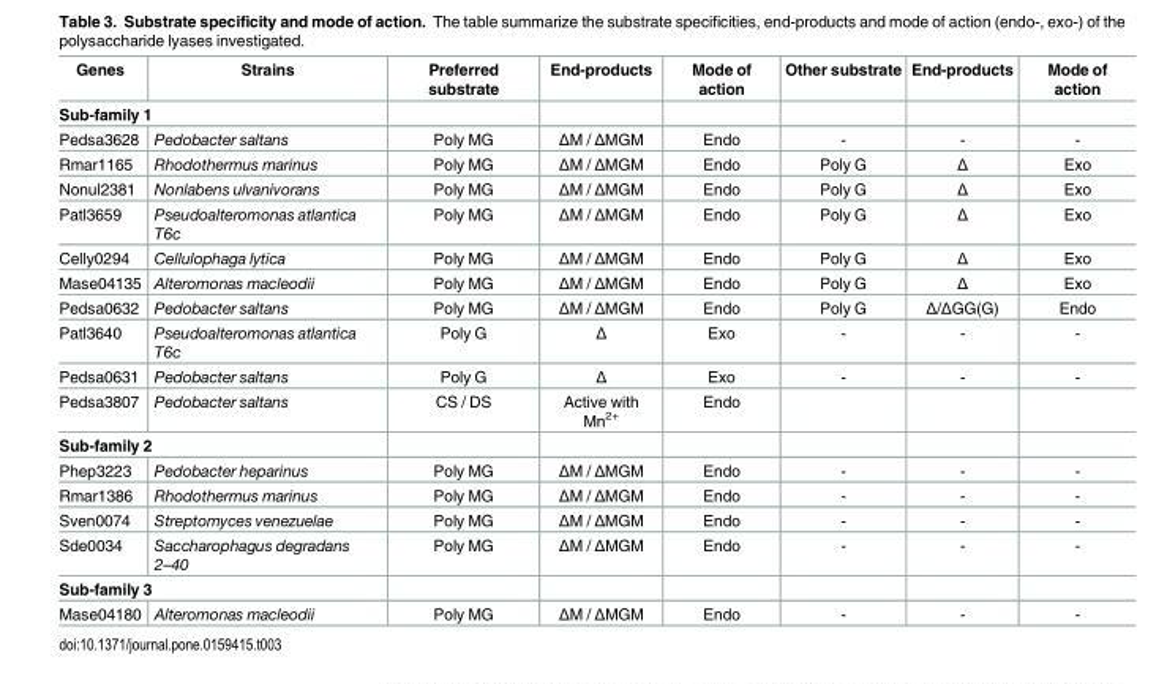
<table><thead><tr><td>Genes</td><td>Strains</td><td>Preferred substrate</td><td>End-products</td><td>Mode of action</td><td>Other substrate</td><td>End-products</td><td>Mode of action</td></tr></thead><tbody><tr><td colspan="8">Sub-family 1</td></tr><tr><td>Pedsa3628</td><td>Pedobacter saltans</td><td>Poly MG</td><td>ΔM / ΔMGM</td><td>Endo</td><td>-</td><td>-</td><td>-</td></tr><tr><td>Rmar1165</td><td>Rhodothermus marinus</td><td>Poly MG</td><td>ΔM / ΔMGM</td><td>Endo</td><td>Poly G</td><td>Δ</td><td>Exo</td></tr><tr><td>Nonul2381</td><td>Nonlabens ulvanivorans</td><td>Poly MG</td><td>ΔM / ΔMGM</td><td>Endo</td><td>Poly G</td><td>Δ</td><td>Exo</td></tr><tr><td>Patl3659</td><td>Pseudoalteromonas atlantica T6c</td><td>Poly MG</td><td>ΔM / ΔMGM</td><td>Endo</td><td>Poly G</td><td>Δ</td><td>Exo</td></tr><tr><td>Celly0294</td><td>Cellulophaga lytica</td><td>Poly MG</td><td>ΔM / ΔMGM</td><td>Endo</td><td>Poly G</td><td>Δ</td><td>Exo</td></tr><tr><td>Mase04135</td><td>Alteromonas macleodii</td><td>Poly MG</td><td>ΔM / ΔMGM</td><td>Endo</td><td>Poly G</td><td>Δ</td><td>Exo</td></tr><tr><td>Pedsa0632</td><td>Pedobacter saltans</td><td>Poly MG</td><td>ΔM / ΔMGM</td><td>Endo</td><td>Poly G</td><td>Δ/ΔGG(G)</td><td>Endo</td></tr><tr><td>Patl3640</td><td>Pseudoalteromonas atlantica T6c</td><td>Poly G</td><td>Δ</td><td>Exo</td><td>-</td><td>-</td><td>-</td></tr><tr><td>Pedsa0631</td><td>Pedobacter saltans</td><td>Poly G</td><td>Δ</td><td>Exo</td><td>-</td><td>-</td><td>-</td></tr><tr><td>Pedsa3807</td><td>Pedobacter saltans</td><td>CS / DS</td><td>Active with Mn<sup>2+</sup></td><td>Endo</td><td></td><td></td><td></td></tr><tr><td colspan="8">Sub-family 2</td></tr><tr><td>Phep3223</td><td>Pedobacter heparinus</td><td>Poly MG</td><td>ΔM / ΔMGM</td><td>Endo</td><td>-</td><td>-</td><td>-</td></tr><tr><td>Rmar1386</td><td>Rhodothermus marinus</td><td>Poly MG</td><td>ΔM / ΔMGM</td><td>Endo</td><td>-</td><td>-</td><td>-</td></tr><tr><td>Sven0074</td><td>Streptomyces venezuelae</td><td>Poly MG</td><td>ΔM / ΔMGM</td><td>Endo</td><td>-</td><td>-</td><td>-</td></tr><tr><td>Sde0034</td><td>Saccharophagus degradans 2–40</td><td>Poly MG</td><td>ΔM / ΔMGM</td><td>Endo</td><td>-</td><td>-</td><td>-</td></tr><tr><td colspan="8">Sub-family 3</td></tr><tr><td>Mase04180</td><td>Alteromonas macleodii</td><td>Poly MG</td><td>ΔM / ΔMGM</td><td>Endo</td><td>-</td><td>-</td><td>-</td></tr></tbody></table>